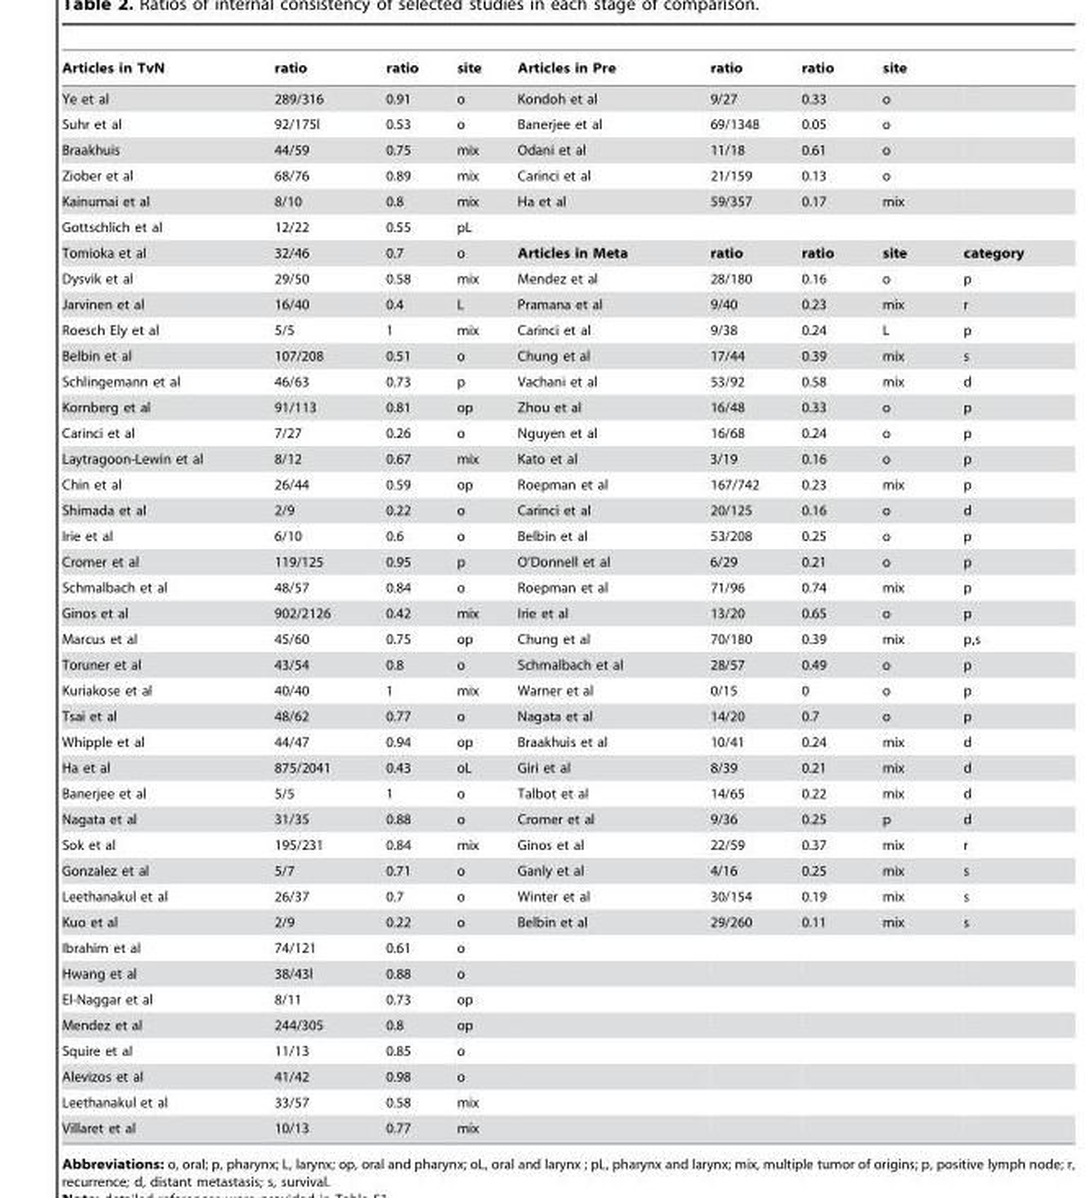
<table><thead><tr><td>Articles in TvN</td><td>ratio</td><td>ratio</td><td>site</td><td>Articles in Pre</td><td>ratio</td><td>ratio</td><td>site</td><td></td></tr></thead><tbody><tr><td>Ye et al</td><td>289/316</td><td>0.91</td><td>o</td><td>Kondoh et al</td><td>9/27</td><td>0.33</td><td>o</td><td></td></tr><tr><td>Suhr et al</td><td>92/175l</td><td>0.53</td><td>o</td><td>Banerjee et al</td><td>69/1348</td><td>0.05</td><td>o</td><td></td></tr><tr><td>Braakhuis</td><td>44/59</td><td>0.75</td><td>mix</td><td>Odani et al</td><td>11/18</td><td>0.61</td><td>o</td><td></td></tr><tr><td>Ziober et al</td><td>68/76</td><td>0.89</td><td>mix</td><td>Carinci et al</td><td>21/159</td><td>0.13</td><td>o</td><td></td></tr><tr><td>Kainumai et al</td><td>8/10</td><td>0.8</td><td>mix</td><td>Ha et al</td><td>59/357</td><td>0.17</td><td>mix</td><td></td></tr><tr><td>Gottschlich et al</td><td>12/22</td><td>0.55</td><td>pL</td><td></td><td></td><td></td><td></td><td></td></tr><tr><td>Tomioka et al</td><td>32/46</td><td>0.7</td><td>o</td><td>Articles in Meta</td><td>ratio</td><td>ratio</td><td>site</td><td>category</td></tr><tr><td>Dysvik et al</td><td>29/50</td><td>0.58</td><td>mix</td><td>Mendez et al</td><td>28/180</td><td>0.16</td><td>o</td><td>p</td></tr><tr><td>Jarvinen et al</td><td>16/40</td><td>0.4</td><td>L</td><td>Pramana et al</td><td>9/40</td><td>0.23</td><td>mix</td><td>r</td></tr><tr><td>Roesch Ely et al</td><td>5/5</td><td>1</td><td>mix</td><td>Carinci et al</td><td>9/38</td><td>0.24</td><td>L</td><td>p</td></tr><tr><td>Belbin et al</td><td>107/208</td><td>0.51</td><td>o</td><td>Chung et al</td><td>17/44</td><td>0.39</td><td>mix</td><td>s</td></tr><tr><td>Schlingemann et al</td><td>46/63</td><td>0.73</td><td>p</td><td>Vachani et al</td><td>53/92</td><td>0.58</td><td>mix</td><td>d</td></tr><tr><td>Kornberg et al</td><td>91/113</td><td>0.81</td><td>op</td><td>Zhou et al</td><td>16/48</td><td>0.33</td><td>o</td><td>p</td></tr><tr><td>Carinci et al</td><td>7/27</td><td>0.26</td><td>o</td><td>Nguyen et al</td><td>16/68</td><td>0.24</td><td>o</td><td>p</td></tr><tr><td>Laytragoon-Lewin et al</td><td>8/12</td><td>0.67</td><td>mix</td><td>Kato et al</td><td>3/19</td><td>0.16</td><td>o</td><td>p</td></tr><tr><td>Chin et al</td><td>26/44</td><td>0.59</td><td>op</td><td>Roepman et al</td><td>167/742</td><td>0.23</td><td>mix</td><td>p</td></tr><tr><td>Shimada et al</td><td>2/9</td><td>0.22</td><td>o</td><td>Carinci et al</td><td>20/125</td><td>0.16</td><td>o</td><td>d</td></tr><tr><td>Irie et al</td><td>6/10</td><td>0.6</td><td>o</td><td>Belbin et al</td><td>53/208</td><td>0.25</td><td>o</td><td>p</td></tr><tr><td>Cromer et al</td><td>119/125</td><td>0.95</td><td>p</td><td>O’Donnell et al</td><td>6/29</td><td>0.21</td><td>o</td><td>p</td></tr><tr><td>Schmalbach et al</td><td>48/57</td><td>0.84</td><td>o</td><td>Roepman et al</td><td>71/96</td><td>0.74</td><td>mix</td><td>p</td></tr><tr><td>Ginos et al</td><td>902/2126</td><td>0.42</td><td>mix</td><td>Irie et al</td><td>13/20</td><td>0.65</td><td>o</td><td>p</td></tr><tr><td>Marcus et al</td><td>45/60</td><td>0.75</td><td>op</td><td>Chung et al</td><td>70/180</td><td>0.39</td><td>mix</td><td>p,s</td></tr><tr><td>Toruner et al</td><td>43/54</td><td>0.8</td><td>o</td><td>Schmalbach et al</td><td>28/57</td><td>0.49</td><td>o</td><td>p</td></tr><tr><td>Kuriakose et al</td><td>40/40</td><td>1</td><td>mix</td><td>Warner et al</td><td>0/15</td><td>0</td><td>o</td><td>p</td></tr><tr><td>Tsai et al</td><td>48/62</td><td>0.77</td><td>o</td><td>Nagata et al</td><td>14/20</td><td>0.7</td><td>o</td><td>p</td></tr><tr><td>Whipple et al</td><td>44/47</td><td>0.94</td><td>op</td><td>Braakhuis et al</td><td>10/41</td><td>0.24</td><td>mix</td><td>d</td></tr><tr><td>Ha et al</td><td>875/2041</td><td>0.43</td><td>oL</td><td>Giri et al</td><td>8/39</td><td>0.21</td><td>mix</td><td>d</td></tr><tr><td>Banerjee et al</td><td>5/5</td><td>1</td><td>o</td><td>Talbot et al</td><td>14/65</td><td>0.22</td><td>mix</td><td>d</td></tr><tr><td>Nagata et al</td><td>31/35</td><td>0.88</td><td>o</td><td>Cromer et al</td><td>9/36</td><td>0.25</td><td>p</td><td>d</td></tr><tr><td>Sok et al</td><td>195/231</td><td>0.84</td><td>mix</td><td>Ginos et al</td><td>22/59</td><td>0.37</td><td>mix</td><td>r</td></tr><tr><td>Gonzalez et al</td><td>5/7</td><td>0.71</td><td>o</td><td>Ganly et al</td><td>4/16</td><td>0.25</td><td>mix</td><td>s</td></tr><tr><td>Leethanakul et al</td><td>26/37</td><td>0.7</td><td>o</td><td>Winter et al</td><td>30/154</td><td>0.19</td><td>mix</td><td>s</td></tr><tr><td>Kuo et al</td><td>2/9</td><td>0.22</td><td>o</td><td>Belbin et al</td><td>29/260</td><td>0.11</td><td>mix</td><td>s</td></tr><tr><td>Ibrahim et al</td><td>74/121</td><td>0.61</td><td>o</td><td></td><td></td><td></td><td></td><td></td></tr><tr><td>Hwang et al</td><td>38/43l</td><td>0.88</td><td>o</td><td></td><td></td><td></td><td></td><td></td></tr><tr><td>El-Naggar et al</td><td>8/11</td><td>0.73</td><td>op</td><td></td><td></td><td></td><td></td><td></td></tr><tr><td>Mendez et al</td><td>244/305</td><td>0.8</td><td>op</td><td></td><td></td><td></td><td></td><td></td></tr><tr><td>Squire et al</td><td>11/13</td><td>0.85</td><td>o</td><td></td><td></td><td></td><td></td><td></td></tr><tr><td>Alevizos et al</td><td>41/42</td><td>0.98</td><td>o</td><td></td><td></td><td></td><td></td><td></td></tr><tr><td>Leethanakul et al</td><td>33/57</td><td>0.58</td><td>mix</td><td></td><td></td><td></td><td></td><td></td></tr><tr><td>Villaret et al</td><td>10/13</td><td>0.77</td><td>mix</td><td></td><td></td><td></td><td></td><td></td></tr></tbody></table>